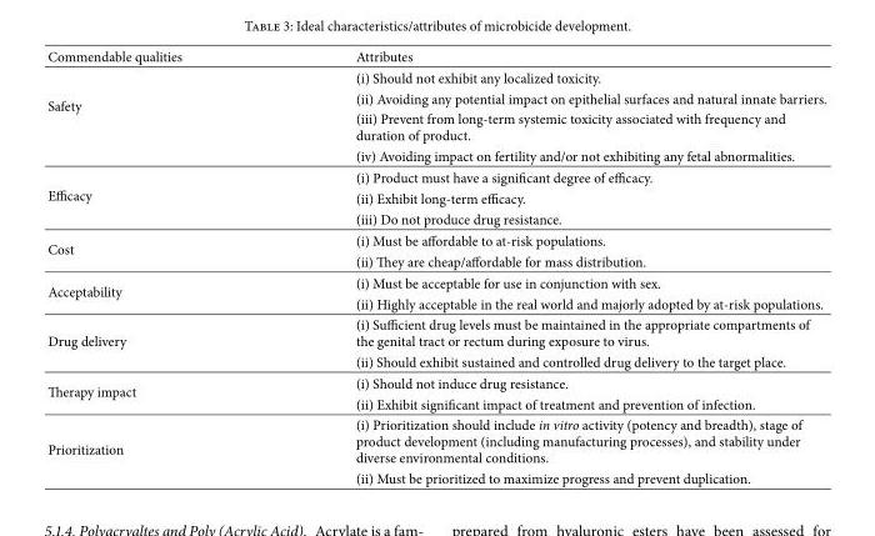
<table><thead><tr><td>Commendable qualities</td><td>Attributes</td></tr></thead><tbody><tr><td rowspan="4">Safety</td><td>(i) Should not exhibit any localized toxicity.</td></tr><tr><td>(ii) Avoiding any potential impact on epithelial surfaces and natural innate barriers.</td></tr><tr><td>(iii) Prevent from long-term systemic toxicity associated with frequency and duration of product.</td></tr><tr><td>(iv) Avoiding impact on fertility and/or not exhibiting any fetal abnormalities.</td></tr><tr><td rowspan="3">Efficacy</td><td>(i) Product must have a significant degree of efficacy.</td></tr><tr><td>(ii) Exhibit long-term efficacy.</td></tr><tr><td>(iii) Do not produce drug resistance.</td></tr><tr><td rowspan="2">Cost</td><td>(i) Must be affordable to at-risk populations.</td></tr><tr><td>(ii) They are cheap/affordable for mass distribution.</td></tr><tr><td rowspan="2">Acceptability</td><td>(i) Must be acceptable for use in conjunction with sex.</td></tr><tr><td>(ii) Highly acceptable in the real world and majorly adopted by at-risk populations.</td></tr><tr><td rowspan="2">Drug delivery</td><td>(i) Sufficient drug levels must be maintained in the appropriate compartments of the genital tract or rectum during exposure to virus.</td></tr><tr><td>(ii) Should exhibit sustained and controlled drug delivery to the target place.</td></tr><tr><td rowspan="2">Therapy impact</td><td>(i) Should not induce drug resistance.</td></tr><tr><td>(ii) Exhibit significant impact of treatment and prevention of infection.</td></tr><tr><td rowspan="2">Prioritization</td><td>(i) Prioritization should include in vitro activity (potency and breadth), stage of product development (including manufacturing processes), and stability under diverse environmental conditions.</td></tr><tr><td>(ii) Must be prioritized to maximize progress and prevent duplication.</td></tr></tbody></table>